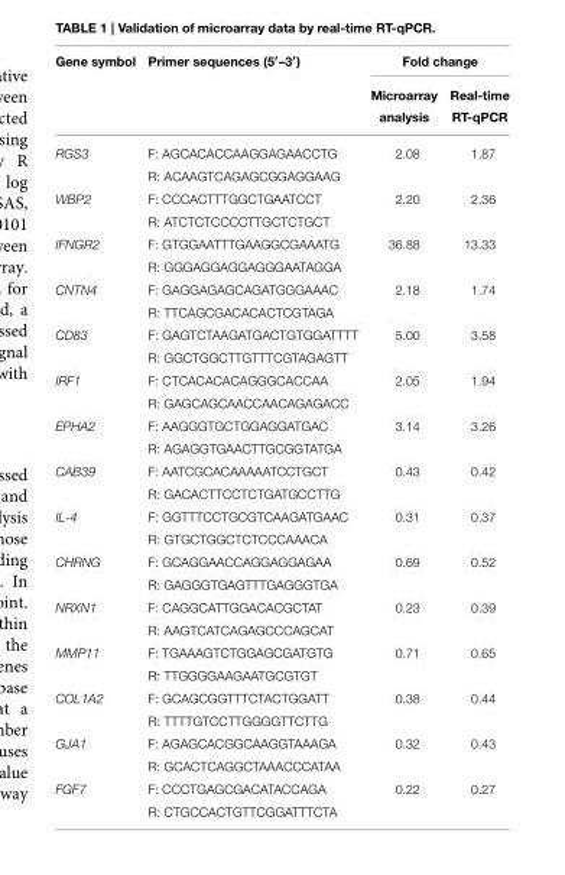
<table><thead><tr><td rowspan="2">Gene symbol</td><td rowspan="2">Primer sequences (5′–3′)</td><td colspan="2">Fold change</td></tr><tr><td>Microarray analysis</td><td>Real-time RT-qPCR</td></tr></thead><tbody><tr><td rowspan="2">RGS3</td><td>F: AGCACACCAAGGAGAACCTG</td><td>2.08</td><td>1.87</td></tr><tr><td>R: ACAAGTCAGAGCGGAGGAAG</td><td></td><td></td></tr><tr><td rowspan="2">WBP2</td><td>F: CCCACTTTGGCTGAATCCT</td><td>2.20</td><td>2.36</td></tr><tr><td>R: ATCTCTCCCCTTGCTCTGCT</td><td></td><td></td></tr><tr><td rowspan="2">IFNGR2</td><td>F: GTGGAATTTGAAGGCGAAATG</td><td>36.88</td><td>13.33</td></tr><tr><td>R: GGGAGGAGGAGGGAATAGGA</td><td></td><td></td></tr><tr><td rowspan="2">CNTN4</td><td>F: GAGGAGAGCAGATGGGAAAC</td><td>2.18</td><td>1.74</td></tr><tr><td>R: TTCAGCGACACACTCGTAGA</td><td></td><td></td></tr><tr><td rowspan="2">CD83</td><td>F: GAGTCTAAGATGACTGTGGATTTT</td><td>5.00</td><td>3.58</td></tr><tr><td>R: GGCTGGCTTGTTTCGTAGAGTT</td><td></td><td></td></tr><tr><td rowspan="2">IRF1</td><td>F: CTCACACACAGGGCACCAA</td><td>2.05</td><td>1.94</td></tr><tr><td>R: GAGCAGCAACCAACAGAGACC</td><td></td><td></td></tr><tr><td rowspan="2">EPHA2</td><td>F: AAGGGTGCTGGAGGATGAC</td><td>3.14</td><td>3.26</td></tr><tr><td>R: AGAGGTGAACTTGCGGTATGA</td><td></td><td></td></tr><tr><td rowspan="2">CAB39</td><td>F: AATCGCACAAAAATCCTGCT</td><td>0.43</td><td>0.42</td></tr><tr><td>R: GACACTTCCTCTGATGCCTTG</td><td></td><td></td></tr><tr><td rowspan="2">IL-4</td><td>F: GGTTTCCTGCGTCAAGATGAAC</td><td>0.31</td><td>0.37</td></tr><tr><td>R: GTGCTGGCTCTCCCAAACA</td><td></td><td></td></tr><tr><td rowspan="2">CHRNG</td><td>F: GCAGGAACCAGGAGGAGAA</td><td>0.69</td><td>0.52</td></tr><tr><td>R: GAGGGTGAGTTTGAGGGTGA</td><td></td><td></td></tr><tr><td rowspan="2">NRXN1</td><td>F: CAGGCATTGGACACGCTAT</td><td>0.23</td><td>0.39</td></tr><tr><td>R: AAGTCATCAGAGCCCAGCAT</td><td></td><td></td></tr><tr><td rowspan="2">MMP11</td><td>F: TGAAAGTCTGGAGCGATGTG</td><td>0.71</td><td>0.65</td></tr><tr><td>R: TTGGGGAAGAATGCGTGT</td><td></td><td></td></tr><tr><td rowspan="2">COL1A2</td><td>F: GCAGCGGTTTCTACTGGATT</td><td>0.38</td><td>0.44</td></tr><tr><td>R: TTTTGTCCTTGGGGTTCTTG</td><td></td><td></td></tr><tr><td rowspan="2">GJA1</td><td>F: AGAGCACGGCAAGGTAAAGA</td><td>0.32</td><td>0.43</td></tr><tr><td>R: GCACTCAGGCTAAACCCATAA</td><td></td><td></td></tr><tr><td rowspan="2">FGF7</td><td>F: CCCTGAGCGACATACCAGA</td><td>0.22</td><td>0.27</td></tr><tr><td>R: CTGCCACTGTTCGGATTTCTA</td><td></td><td></td></tr></tbody></table>